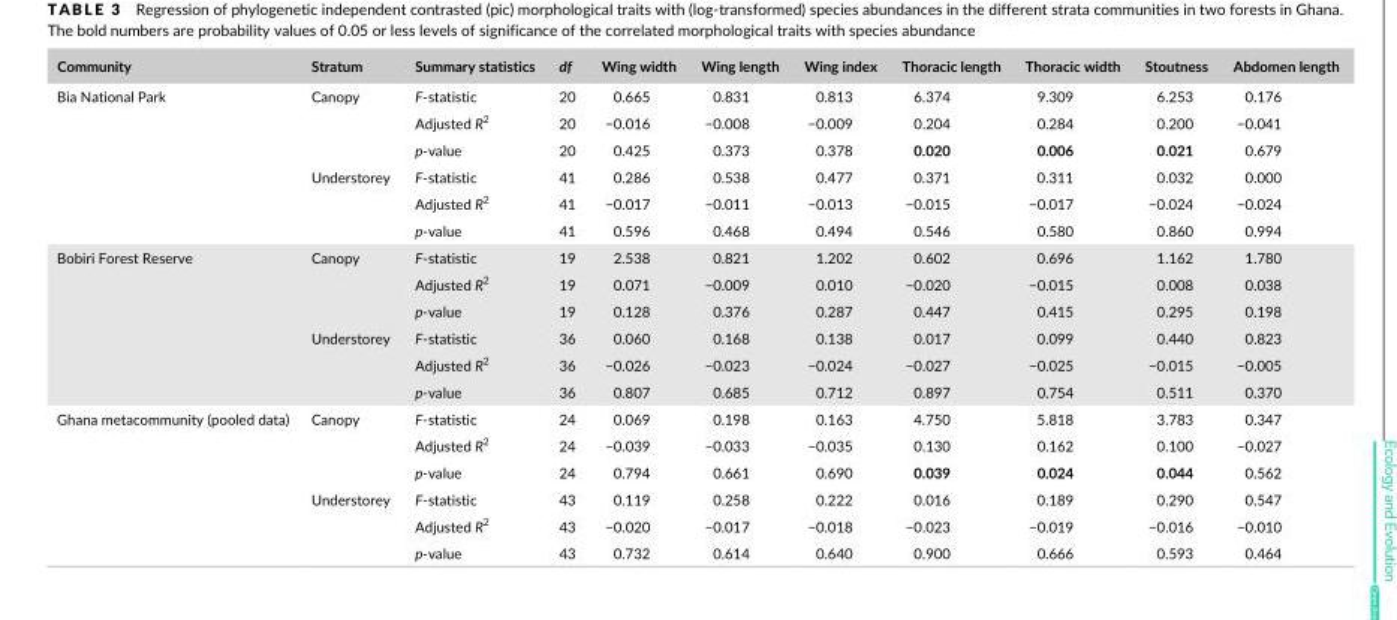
<table><thead><tr><td>Community</td><td>Stratum</td><td>Summary statistics</td><td>df</td><td>Wing width</td><td>Wing length</td><td>Wing index</td><td>Thoracic length</td><td>Thoracic width</td><td>Stoutness</td><td>Abdomen length</td></tr></thead><tbody><tr><td rowspan="6">Bia National Park</td><td rowspan="3">Canopy</td><td>F- statistic</td><td>20</td><td>0.665</td><td>0.831</td><td>0.813</td><td>6.374</td><td>9.309</td><td>6.253</td><td>0.176</td></tr><tr><td>Adjusted R<sup>2</sup></td><td>20</td><td>−0.016</td><td>−0.008</td><td>−0.009</td><td>0.204</td><td>0.284</td><td>0.200</td><td>−0.041</td></tr><tr><td>p- value</td><td>20</td><td>0.425</td><td>0.373</td><td>0.378</td><td>0.020</td><td>0.006</td><td>0.021</td><td>0.679</td></tr><tr><td rowspan="3">Understorey</td><td>F- statistic</td><td>41</td><td>0.286</td><td>0.538</td><td>0.477</td><td>0.371</td><td>0.311</td><td>0.032</td><td>0.000</td></tr><tr><td>Adjusted R<sup>2</sup></td><td>41</td><td>−0.017</td><td>−0.011</td><td>−0.013</td><td>−0.015</td><td>−0.017</td><td>−0.024</td><td>−0.024</td></tr><tr><td>p- value</td><td>41</td><td>0.596</td><td>0.468</td><td>0.494</td><td>0.546</td><td>0.580</td><td>0.860</td><td>0.994</td></tr><tr><td rowspan="6">Bobiri Forest Reserve</td><td rowspan="3">Canopy</td><td>F- statistic</td><td>19</td><td>2.538</td><td>0.821</td><td>1.202</td><td>0.602</td><td>0.696</td><td>1.162</td><td>1.780</td></tr><tr><td>Adjusted R<sup>2</sup></td><td>19</td><td>0.071</td><td>−0.009</td><td>0.010</td><td>−0.020</td><td>−0.015</td><td>0.008</td><td>0.038</td></tr><tr><td>p- value</td><td>19</td><td>0.128</td><td>0.376</td><td>0.287</td><td>0.447</td><td>0.415</td><td>0.295</td><td>0.198</td></tr><tr><td rowspan="3">Understorey</td><td>F- statistic</td><td>36</td><td>0.060</td><td>0.168</td><td>0.138</td><td>0.017</td><td>0.099</td><td>0.440</td><td>0.823</td></tr><tr><td>Adjusted R<sup>2</sup></td><td>36</td><td>−0.026</td><td>−0.023</td><td>−0.024</td><td>−0.027</td><td>−0.025</td><td>−0.015</td><td>−0.005</td></tr><tr><td>p- value</td><td>36</td><td>0.807</td><td>0.685</td><td>0.712</td><td>0.897</td><td>0.754</td><td>0.511</td><td>0.370</td></tr><tr><td rowspan="6">Ghana metacommunity (pooled data)</td><td rowspan="3">Canopy</td><td>F- statistic</td><td>24</td><td>0.069</td><td>0.198</td><td>0.163</td><td>4.750</td><td>5.818</td><td>3.783</td><td>0.347</td></tr><tr><td>Adjusted R<sup>2</sup></td><td>24</td><td>−0.039</td><td>−0.033</td><td>−0.035</td><td>0.130</td><td>0.162</td><td>0.100</td><td>−0.027</td></tr><tr><td>p- value</td><td>24</td><td>0.794</td><td>0.661</td><td>0.690</td><td>0.039</td><td>0.024</td><td>0.044</td><td>0.562</td></tr><tr><td rowspan="3">Understorey</td><td>F- statistic</td><td>43</td><td>0.119</td><td>0.258</td><td>0.222</td><td>0.016</td><td>0.189</td><td>0.290</td><td>0.547</td></tr><tr><td>Adjusted R<sup>2</sup></td><td>43</td><td>−0.020</td><td>−0.017</td><td>−0.018</td><td>−0.023</td><td>−0.019</td><td>−0.016</td><td>−0.010</td></tr><tr><td>p- value</td><td>43</td><td>0.732</td><td>0.614</td><td>0.640</td><td>0.900</td><td>0.666</td><td>0.593</td><td>0.464</td></tr></tbody></table>